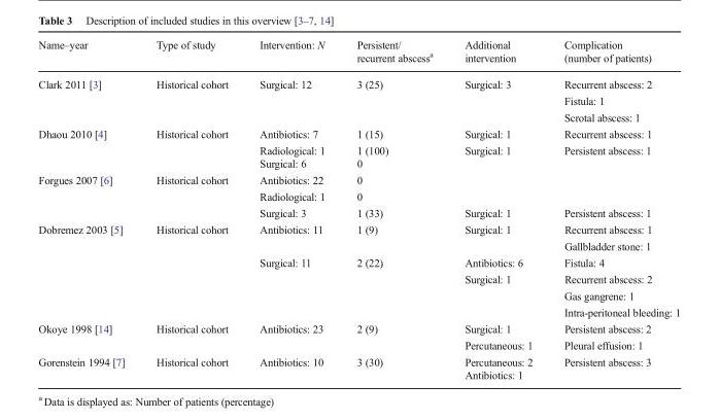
<table><thead><tr><td>Name–year</td><td>Type of study</td><td>Intervention: N</td><td>Persistent/ recurrent abscess<sup>a</sup></td><td>Additional intervention</td><td>Complication (number of patients)</td></tr></thead><tbody><tr><td rowspan="3">Clark 2011 [3]</td><td rowspan="3">Historical cohort</td><td rowspan="3">Surgical: 12</td><td rowspan="3">3 (25)</td><td rowspan="3">Surgical: 3</td><td>Recurrent abscess: 2</td></tr><tr><td>Fistula: 1</td></tr><tr><td>Scrotal abscess: 1</td></tr><tr><td rowspan="3">Dhaou 2010 [4]</td><td rowspan="3">Historical cohort</td><td>Antibiotics: 7</td><td>1 (15)</td><td>Surgical: 1</td><td>Recurrent abscess: 1</td></tr><tr><td>Radiological: 1</td><td>1 (100)</td><td rowspan="2">Surgical: 1</td><td rowspan="2">Persistent abscess: 1</td></tr><tr><td>Surgical: 6</td><td>0</td></tr><tr><td rowspan="3">Forgues 2007 [6]</td><td rowspan="3">Historical cohort</td><td>Antibiotics: 22</td><td>0</td><td></td><td></td></tr><tr><td>Radiological: 1</td><td>0</td><td></td><td></td></tr><tr><td>Surgical: 3</td><td>1 (33)</td><td>Surgical: 1</td><td>Persistent abscess: 1</td></tr><tr><td rowspan="6">Dobremez 2003 [5]</td><td rowspan="6">Historical cohort</td><td>Antibiotics: 11</td><td>1 (9)</td><td>Surgical: 1</td><td>Recurrent abscess: 1</td></tr><tr><td></td><td></td><td></td><td>Gallbladder stone: 1</td></tr><tr><td>Surgical: 11</td><td>2 (22)</td><td>Antibiotics: 6</td><td>Fistula: 4</td></tr><tr><td rowspan="3"></td><td rowspan="3"></td><td>Surgical: 1</td><td>Recurrent abscess: 2</td></tr><tr><td rowspan="2"></td><td>Gas gangrene: 1</td></tr><tr><td>Intra-peritoneal bleeding: 1</td></tr><tr><td rowspan="2">Okoye 1998 [14]</td><td rowspan="2">Historical cohort</td><td rowspan="2">Antibiotics: 23</td><td rowspan="2">2 (9)</td><td>Surgical: 1</td><td>Persistent abscess: 2</td></tr><tr><td>Percutaneous: 1</td><td>Pleural effusion: 1</td></tr><tr><td rowspan="2">Gorenstein 1994 [7]</td><td rowspan="2">Historical cohort</td><td rowspan="2">Antibiotics: 10</td><td rowspan="2">3 (30)</td><td>Percutaneous: 2</td><td rowspan="2">Persistent abscess: 3</td></tr><tr><td>Antibiotics: 1</td></tr></tbody></table>